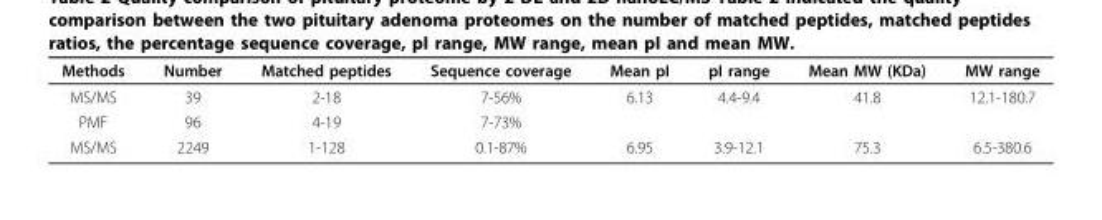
<table><thead><tr><td>Methods</td><td>Number</td><td>Matched peptides</td><td>Sequence coverage</td><td>Mean pI</td><td>pI range</td><td>Mean MW (KDa)</td><td>MW range</td></tr></thead><tbody><tr><td>MS/MS</td><td>39</td><td>2-18</td><td>7-56%</td><td>6.13</td><td>4.4-9.4</td><td>41.8</td><td>12.1-180.7</td></tr><tr><td>PMF</td><td>96</td><td>4-19</td><td>7-73%</td><td></td><td></td><td></td><td></td></tr><tr><td>MS/MS</td><td>2249</td><td>1-128</td><td>0.1-87%</td><td>6.95</td><td>3.9-12.1</td><td>75.3</td><td>6.5-380.6</td></tr></tbody></table>